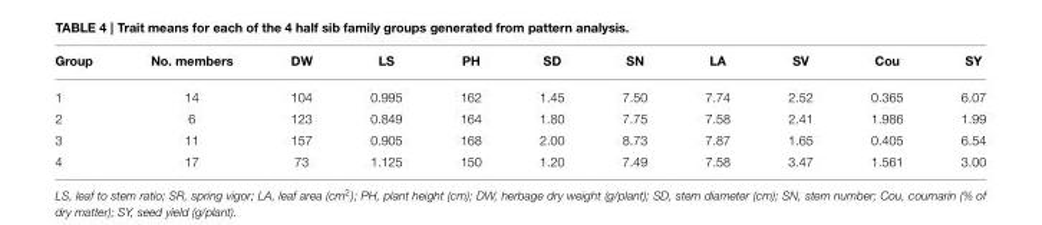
<table><thead><tr><td>Group</td><td>No. members</td><td>DW</td><td>LS</td><td>PH</td><td>SD</td><td>SN</td><td>LA</td><td>SV</td><td>Cou</td><td>SY</td></tr></thead><tbody><tr><td>1</td><td>14</td><td>104</td><td>0.995</td><td>162</td><td>1.45</td><td>7.50</td><td>7.74</td><td>2.52</td><td>0.365</td><td>6.07</td></tr><tr><td>2</td><td>6</td><td>123</td><td>0.849</td><td>164</td><td>1.80</td><td>7.75</td><td>7.58</td><td>2.41</td><td>1.986</td><td>1.99</td></tr><tr><td>3</td><td>11</td><td>157</td><td>0.905</td><td>168</td><td>2.00</td><td>8.73</td><td>7.87</td><td>1.65</td><td>0.405</td><td>6.54</td></tr><tr><td>4</td><td>17</td><td>73</td><td>1.125</td><td>150</td><td>1.20</td><td>7.49</td><td>7.58</td><td>3.47</td><td>1.561</td><td>3.00</td></tr></tbody></table>